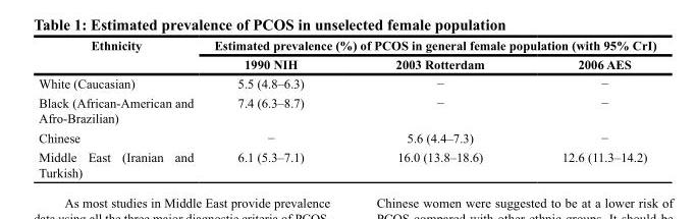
<table><thead><tr><td rowspan="2">Ethnicity</td><td colspan="3">Estimated prevalence (%) of PCOS in general female population (with 95% CrI)</td></tr><tr><td>1990 NIH</td><td>2003 Rotterdam</td><td>2006 AES</td></tr></thead><tbody><tr><td>White (Caucasian)</td><td>5.5 (4.8–6.3)</td><td>−</td><td>−</td></tr><tr><td>Black (African-American and Afro-Brazilian)</td><td>7.4 (6.3–8.7)</td><td>−</td><td>−</td></tr><tr><td>Chinese</td><td>−</td><td>5.6 (4.4–7.3)</td><td>−</td></tr><tr><td>Middle East (Iranian and Turkish)</td><td>6.1 (5.3–7.1)</td><td>16.0 (13.8–18.6)</td><td>12.6 (11.3–14.2)</td></tr></tbody></table>